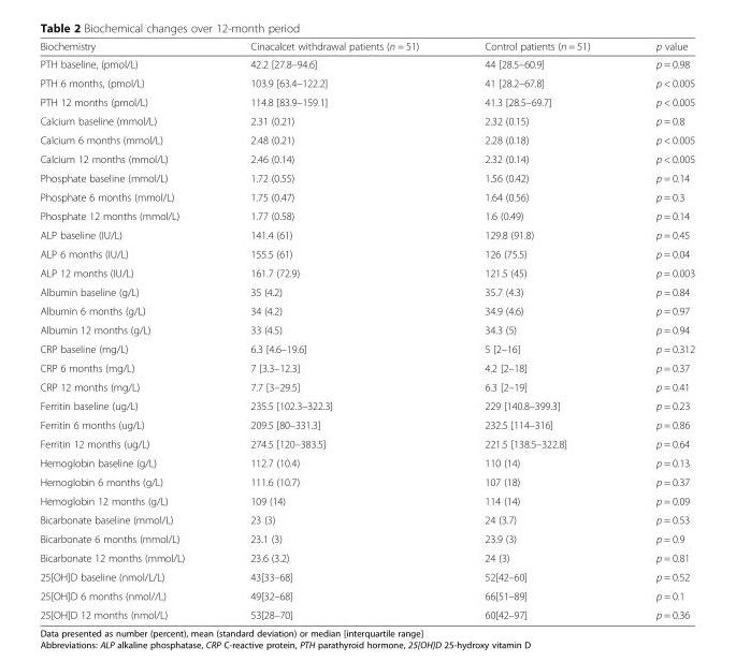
<table><thead><tr><td>Biochemistry</td><td>Cinacalcet withdrawal patients (n = 51)</td><td>Control patients (n = 51)</td><td>p value</td></tr></thead><tbody><tr><td>PTH baseline, (pmol/L)</td><td>42.2 [27.8–94.6]</td><td>44 [28.5–60.9]</td><td>p = 0.98</td></tr><tr><td>PTH 6 months, (pmol/L)</td><td>103.9 [63.4–122.2]</td><td>41 [28.2–67.8]</td><td>p &lt; 0.005</td></tr><tr><td>PTH 12 months (pmol/L)</td><td>114.8 [83.9–159.1]</td><td>41.3 [28.5–69.7]</td><td>p &lt; 0.005</td></tr><tr><td>Calcium baseline (mmol/L)</td><td>2.31 (0.21)</td><td>2.32 (0.15)</td><td>p = 0.8</td></tr><tr><td>Calcium 6 months (mmol/L)</td><td>2.48 (0.21)</td><td>2.28 (0.18)</td><td>p &lt; 0.005</td></tr><tr><td>Calcium 12 months (mmol/L)</td><td>2.46 (0.14)</td><td>2.32 (0.14)</td><td>p &lt; 0.005</td></tr><tr><td>Phosphate baseline (mmol/L)</td><td>1.72 (0.55)</td><td>1.56 (0.42)</td><td>p = 0.14</td></tr><tr><td>Phosphate 6 months (mmol/L)</td><td>1.75 (0.47)</td><td>1.64 (0.56)</td><td>p = 0.3</td></tr><tr><td>Phosphate 12 months (mmol/L)</td><td>1.77 (0.58)</td><td>1.6 (0.49)</td><td>p = 0.14</td></tr><tr><td>ALP baseline (IU/L)</td><td>141.4 (61)</td><td>129.8 (91.8)</td><td>p = 0.45</td></tr><tr><td>ALP 6 months (IU/L)</td><td>155.5 (61)</td><td>126 (75.5)</td><td>p = 0.04</td></tr><tr><td>ALP 12 months (IU/L)</td><td>161.7 (72.9)</td><td>121.5 (45)</td><td>p = 0.003</td></tr><tr><td>Albumin baseline (g/L)</td><td>35 (4.2)</td><td>35.7 (4.3)</td><td>p = 0.84</td></tr><tr><td>Albumin 6 months (g/L)</td><td>34 (4.2)</td><td>34.9 (4.6)</td><td>p = 0.97</td></tr><tr><td>Albumin 12 months (g/L)</td><td>33 (4.5)</td><td>34.3 (5)</td><td>p = 0.94</td></tr><tr><td>CRP baseline (mg/L)</td><td>6.3 [4.6–19.6]</td><td>5 [2–16]</td><td>p = 0.312</td></tr><tr><td>CRP 6 months (mg/L)</td><td>7 [3.3–12.3]</td><td>4.2 [2–18]</td><td>p = 0.37</td></tr><tr><td>CRP 12 months (mg/L)</td><td>7.7 [3–29.5]</td><td>6.3 [2–19]</td><td>p = 0.41</td></tr><tr><td>Ferritin baseline (ug/L)</td><td>235.5 [102.3–322.3]</td><td>229 [140.8–399.3]</td><td>p = 0.23</td></tr><tr><td>Ferritin 6 months (ug/L)</td><td>209.5 [80–331.3]</td><td>232.5 [114–316]</td><td>p = 0.86</td></tr><tr><td>Ferritin 12 months (ug/L)</td><td>274.5 [120–383.5]</td><td>221.5 [138.5–322.8]</td><td>p = 0.64</td></tr><tr><td>Hemoglobin baseline (g/L)</td><td>112.7 (10.4)</td><td>110 (14)</td><td>p = 0.13</td></tr><tr><td>Hemoglobin 6 months (g/L)</td><td>111.6 (10.7)</td><td>107 (18)</td><td>p = 0.37</td></tr><tr><td>Hemoglobin 12 months (g/L)</td><td>109 (14)</td><td>114 (14)</td><td>p = 0.09</td></tr><tr><td>Bicarbonate baseline (mmol/L)</td><td>23 (3)</td><td>24 (3.7)</td><td>p = 0.53</td></tr><tr><td>Bicarbonate 6 months (mmol/L)</td><td>23.1 (3)</td><td>23.9 (3)</td><td>p = 0.9</td></tr><tr><td>Bicarbonate 12 months (mmol/L)</td><td>23.6 (3.2)</td><td>24 (3)</td><td>p = 0.81</td></tr><tr><td>25[OH]D baseline (nmol/L/L)</td><td>43[33–68]</td><td>52[42–60]</td><td>p = 0.52</td></tr><tr><td>25[OH]D 6 months (nmol//L)</td><td>49[32–68]</td><td>66[51–89]</td><td>p = 0.1</td></tr><tr><td>25[OH]D 12 months (nmol/L)</td><td>53[28–70]</td><td>60[42–97]</td><td>p = 0.36</td></tr></tbody></table>